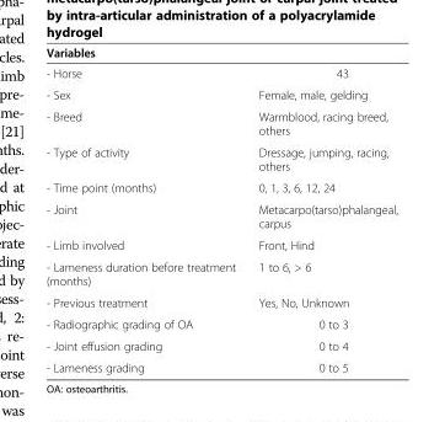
<table><thead><tr><td colspan="2">Variables</td></tr><tr><td>- Horse</td><td>43</td></tr></thead><tbody><tr><td>- Sex</td><td>Female, male, gelding</td></tr><tr><td>- Breed</td><td>Warmblood, racing breed, others</td></tr><tr><td>- Type of activity</td><td>Dressage, jumping, racing, others</td></tr><tr><td>- Time point (months)</td><td>0, 1, 3, 6, 12, 24</td></tr><tr><td>- Joint</td><td>Metacarpo(tarso)phalangeal, carpus</td></tr><tr><td>- Limb involved</td><td>Front, Hind</td></tr><tr><td>- Lameness duration before treatment (months)</td><td>1 to 6, &gt; 6</td></tr><tr><td>- Previous treatment</td><td>Yes, No, Unknown</td></tr><tr><td>- Radiographic grading of OA</td><td>0 to 3</td></tr><tr><td>- Joint effusion grading</td><td>0 to 4</td></tr><tr><td>- Lameness grading</td><td>0 to 5</td></tr></tbody></table>